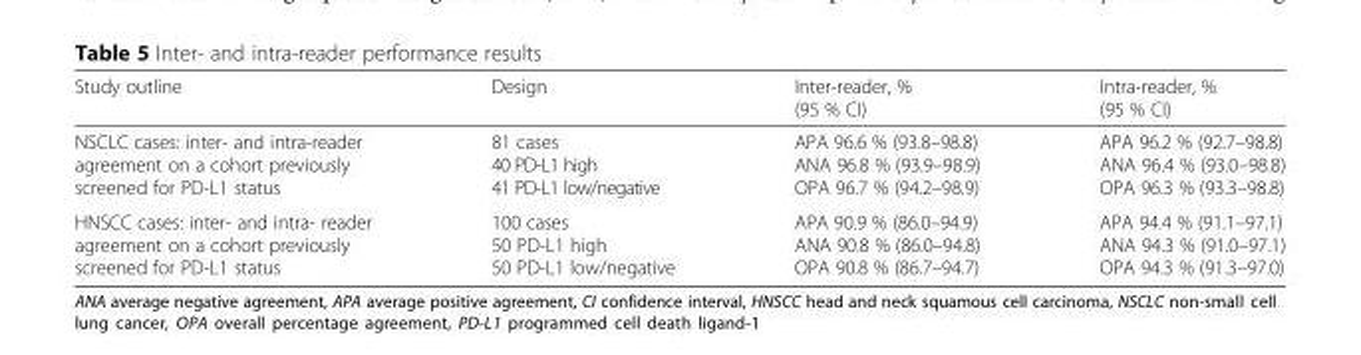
<table><thead><tr><td>Study outline</td><td>Design</td><td>Inter-reader, % (95 % CI)</td><td>Intra-reader, % (95 % CI)</td></tr></thead><tbody><tr><td>NSCLC cases: inter- and intra-reader agreement on a cohort previously screened for PD-L1 status</td><td>81 cases 40 PD-L1 high 41 PD-L1 low/negative</td><td>APA 96.6 % (93.8–98.8) ANA 96.8 % (93.9–98.9) OPA 96.7 % (94.2–98.9)</td><td>APA 96.2 % (92.7–98.8) ANA 96.4 % (93.0–98.8) OPA 96.3 % (93.3–98.8)</td></tr><tr><td>HNSCC cases: inter- and intra- reader agreement on a cohort previously screened for PD-L1 status</td><td>100 cases 50 PD-L1 high 50 PD-L1 low/negative</td><td>APA 90.9 % (86.0–94.9) ANA 90.8 % (86.0–94.8) OPA 90.8 % (86.7–94.7)</td><td>APA 94.4 % (91.1–97.1) ANA 94.3 % (91.0–97.1) OPA 94.3 % (91.3–97.0)</td></tr></tbody></table>